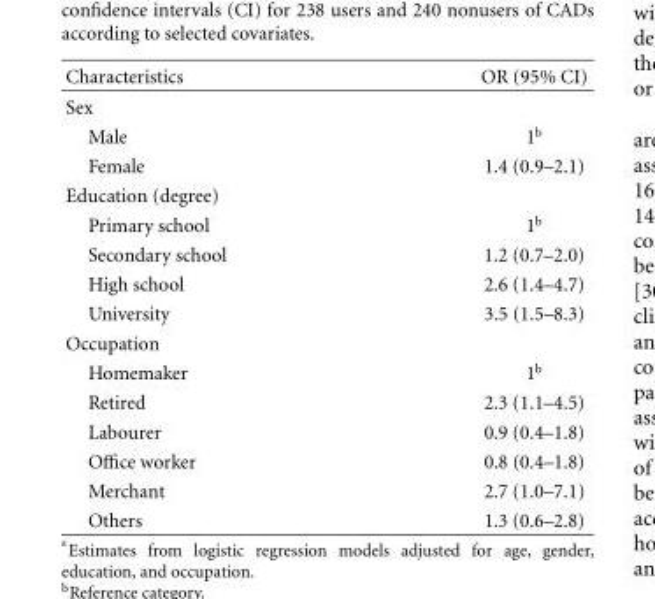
<table><thead><tr><td>Characteristics</td><td>OR (95% CI)</td></tr></thead><tbody><tr><td colspan="2">Sex</td></tr><tr><td>Male</td><td>1<sup>b</sup></td></tr><tr><td>Female</td><td>1.4 (0.9–2.1)</td></tr><tr><td colspan="2">Education (degree)</td></tr><tr><td>Primary school</td><td>1<sup>b</sup></td></tr><tr><td>Secondary school</td><td>1.2 (0.7–2.0)</td></tr><tr><td>High school</td><td>2.6 (1.4–4.7)</td></tr><tr><td>University</td><td>3.5 (1.5–8.3)</td></tr><tr><td colspan="2">Occupation</td></tr><tr><td>Homemaker</td><td>1<sup>b</sup></td></tr><tr><td>Retired</td><td>2.3 (1.1–4.5)</td></tr><tr><td>Labourer</td><td>0.9 (0.4–1.8)</td></tr><tr><td>Office worker</td><td>0.8 (0.4–1.8)</td></tr><tr><td>Merchant</td><td>2.7 (1.0–7.1)</td></tr><tr><td>Others</td><td>1.3 (0.6–2.8)</td></tr></tbody></table>